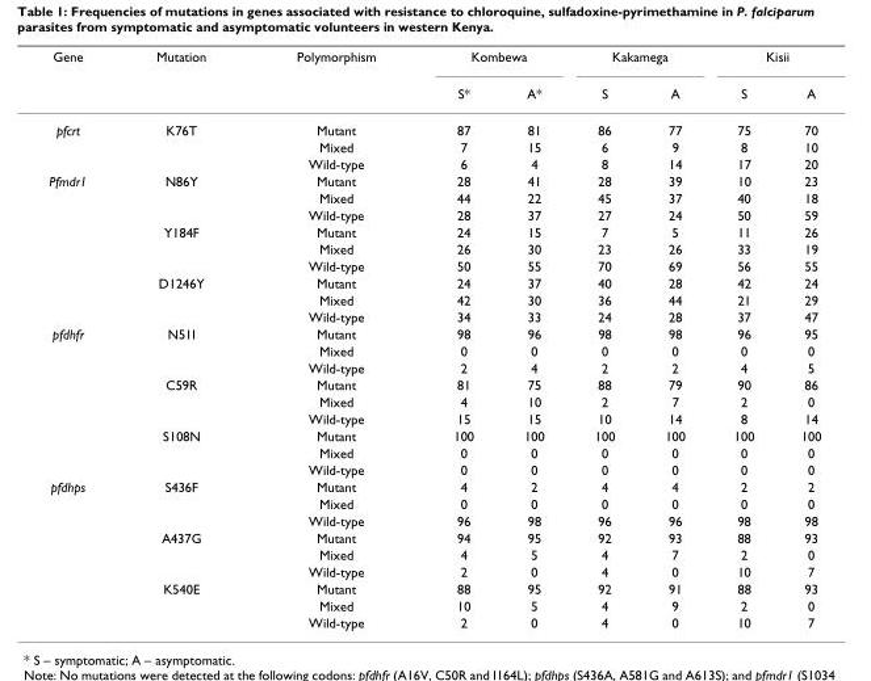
<table><thead><tr><td rowspan="2">Gene</td><td rowspan="2">Mutation</td><td rowspan="2">Polymorphism</td><td colspan="2">Kombewa</td><td colspan="2">Kakamega</td><td colspan="2">Kisii</td></tr><tr><td>S*</td><td>A*</td><td>S</td><td>A</td><td>S</td><td>A</td></tr></thead><tbody><tr><td rowspan="3">pfcrt</td><td>K76T</td><td>Mutant</td><td>87</td><td>81</td><td>86</td><td>77</td><td>75</td><td>70</td></tr><tr><td></td><td>Mixed</td><td>7</td><td>15</td><td>6</td><td>9</td><td>8</td><td>10</td></tr><tr><td></td><td>Wild-type</td><td>6</td><td>4</td><td>8</td><td>14</td><td>17</td><td>20</td></tr><tr><td rowspan="9">Pfmdr1</td><td>N86Y</td><td>Mutant</td><td>28</td><td>41</td><td>28</td><td>39</td><td>10</td><td>23</td></tr><tr><td></td><td>Mixed</td><td>44</td><td>22</td><td>45</td><td>37</td><td>40</td><td>18</td></tr><tr><td></td><td>Wild-type</td><td>28</td><td>37</td><td>27</td><td>24</td><td>50</td><td>59</td></tr><tr><td>Y184F</td><td>Mutant</td><td>24</td><td>15</td><td>7</td><td>5</td><td>11</td><td>26</td></tr><tr><td></td><td>Mixed</td><td>26</td><td>30</td><td>23</td><td>26</td><td>33</td><td>19</td></tr><tr><td></td><td>Wild-type</td><td>50</td><td>55</td><td>70</td><td>69</td><td>56</td><td>55</td></tr><tr><td>D1246Y</td><td>Mutant</td><td>24</td><td>37</td><td>40</td><td>28</td><td>42</td><td>24</td></tr><tr><td></td><td>Mixed</td><td>42</td><td>30</td><td>36</td><td>44</td><td>21</td><td>29</td></tr><tr><td></td><td>Wild-type</td><td>34</td><td>33</td><td>24</td><td>28</td><td>37</td><td>47</td></tr><tr><td rowspan="9">pfdhfr</td><td>N51I</td><td>Mutant</td><td>98</td><td>96</td><td>98</td><td>98</td><td>96</td><td>95</td></tr><tr><td></td><td>Mixed</td><td>0</td><td>0</td><td>0</td><td>0</td><td>0</td><td>0</td></tr><tr><td></td><td>Wild-type</td><td>2</td><td>4</td><td>2</td><td>2</td><td>4</td><td>5</td></tr><tr><td>C59R</td><td>Mutant</td><td>81</td><td>75</td><td>88</td><td>79</td><td>90</td><td>86</td></tr><tr><td></td><td>Mixed</td><td>4</td><td>10</td><td>2</td><td>7</td><td>2</td><td>0</td></tr><tr><td></td><td>Wild-type</td><td>15</td><td>15</td><td>10</td><td>14</td><td>8</td><td>14</td></tr><tr><td>S108N</td><td>Mutant</td><td>100</td><td>100</td><td>100</td><td>100</td><td>100</td><td>100</td></tr><tr><td></td><td>Mixed</td><td>0</td><td>0</td><td>0</td><td>0</td><td>0</td><td>0</td></tr><tr><td></td><td>Wild-type</td><td>0</td><td>0</td><td>0</td><td>0</td><td>0</td><td>0</td></tr><tr><td rowspan="9">pfdhps</td><td>S436F</td><td>Mutant</td><td>4</td><td>2</td><td>4</td><td>4</td><td>2</td><td>2</td></tr><tr><td></td><td>Mixed</td><td>0</td><td>0</td><td>0</td><td>0</td><td>0</td><td>0</td></tr><tr><td></td><td>Wild-type</td><td>96</td><td>98</td><td>96</td><td>96</td><td>98</td><td>98</td></tr><tr><td>A437G</td><td>Mutant</td><td>94</td><td>95</td><td>92</td><td>93</td><td>88</td><td>93</td></tr><tr><td></td><td>Mixed</td><td>4</td><td>5</td><td>4</td><td>7</td><td>2</td><td>0</td></tr><tr><td></td><td>Wild-type</td><td>2</td><td>0</td><td>4</td><td>0</td><td>10</td><td>7</td></tr><tr><td>K540E</td><td>Mutant</td><td>88</td><td>95</td><td>92</td><td>91</td><td>88</td><td>93</td></tr><tr><td></td><td>Mixed</td><td>10</td><td>5</td><td>4</td><td>9</td><td>2</td><td>0</td></tr><tr><td></td><td>Wild-type</td><td>2</td><td>0</td><td>4</td><td>0</td><td>10</td><td>7</td></tr></tbody></table>